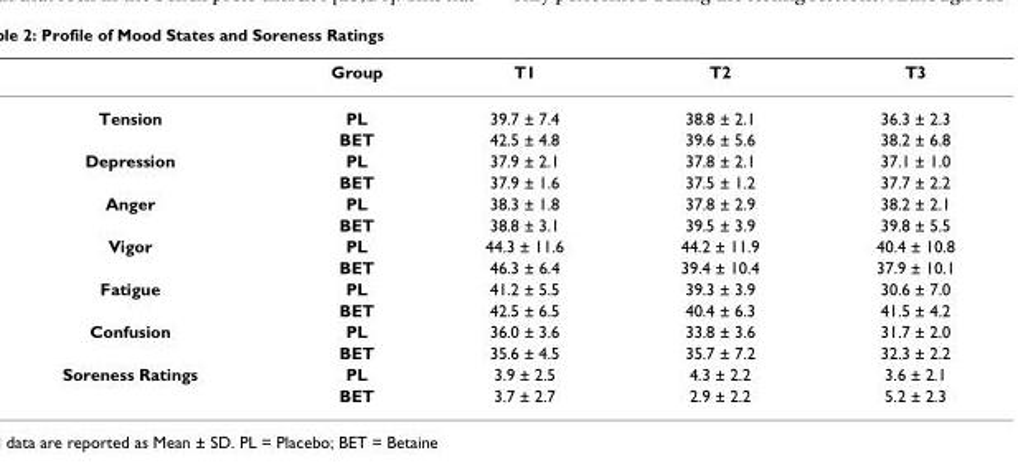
<table><thead><tr><td></td><td>Group</td><td>T1</td><td>T2</td><td>T3</td></tr></thead><tbody><tr><td rowspan="2">Tension</td><td>PL</td><td>39.7 ± 7.4</td><td>38.8 ± 2.1</td><td>36.3 ± 2.3</td></tr><tr><td>BET</td><td>42.5 ± 4.8</td><td>39.6 ± 5.6</td><td>38.2 ± 6.8</td></tr><tr><td rowspan="2">Depression</td><td>PL</td><td>37.9 ± 2.1</td><td>37.8 ± 2.1</td><td>37.1 ± 1.0</td></tr><tr><td>BET</td><td>37.9 ± 1.6</td><td>37.5 ± 1.2</td><td>37.7 ± 2.2</td></tr><tr><td rowspan="2">Anger</td><td>PL</td><td>38.3 ± 1.8</td><td>37.8 ± 2.9</td><td>38.2 ± 2.1</td></tr><tr><td>BET</td><td>38.8 ± 3.1</td><td>39.5 ± 3.9</td><td>39.8 ± 5.5</td></tr><tr><td rowspan="2">Vigor</td><td>PL</td><td>44.3 ± 11.6</td><td>44.2 ± 11.9</td><td>40.4 ± 10.8</td></tr><tr><td>BET</td><td>46.3 ± 6.4</td><td>39.4 ± 10.4</td><td>37.9 ± 10.1</td></tr><tr><td rowspan="2">Fatigue</td><td>PL</td><td>41.2 ± 5.5</td><td>39.3 ± 3.9</td><td>30.6 ± 7.0</td></tr><tr><td>BET</td><td>42.5 ± 6.5</td><td>40.4 ± 6.3</td><td>41.5 ± 4.2</td></tr><tr><td rowspan="2">Confusion</td><td>PL</td><td>36.0 ± 3.6</td><td>33.8 ± 3.6</td><td>31.7 ± 2.0</td></tr><tr><td>BET</td><td>35.6 ± 4.5</td><td>35.7 ± 7.2</td><td>32.3 ± 2.2</td></tr><tr><td rowspan="2">Soreness Ratings</td><td>PL</td><td>3.9 ± 2.5</td><td>4.3 ± 2.2</td><td>3.6 ± 2.1</td></tr><tr><td>BET</td><td>3.7 ± 2.7</td><td>2.9 ± 2.2</td><td>5.2 ± 2.3</td></tr></tbody></table>